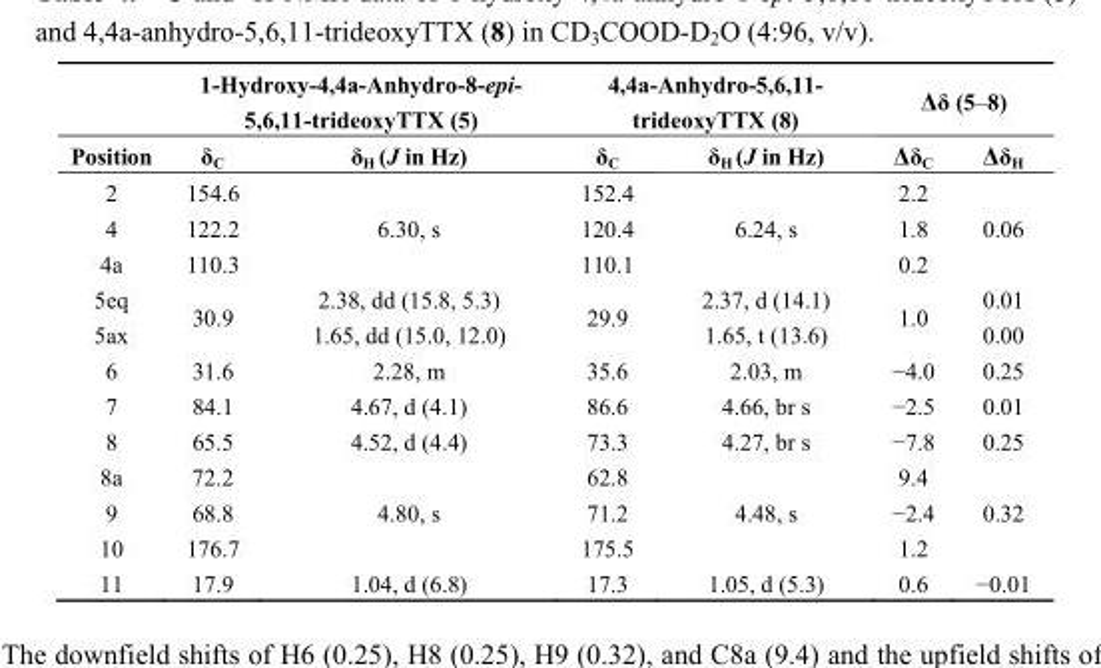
<table><thead><tr><td rowspan="2">Position</td><td colspan="2">1-Hydroxy-4,4a-Anhydro-8-epi- 5,6,11-trideoxyTTX (5)</td><td colspan="2">4,4a-Anhydro-5,6,11- trideoxyTTX (8)</td><td colspan="2">Δδ (5–8)</td></tr><tr><td>δ<sub>C</sub></td><td>δ<sub>H</sub> (J in Hz)</td><td>δ<sub>C</sub></td><td>δ<sub>H</sub> (J in Hz)</td><td>Δδ<sub>C</sub></td><td>Δδ<sub>H</sub></td></tr></thead><tbody><tr><td>2</td><td>154.6</td><td></td><td>152.4</td><td></td><td>2.2</td><td></td></tr><tr><td>4</td><td>122.2</td><td>6.30, s</td><td>120.4</td><td>6.24, s</td><td>1.8</td><td>0.06</td></tr><tr><td>4a</td><td>110.3</td><td></td><td>110.1</td><td></td><td>0.2</td><td></td></tr><tr><td>5eq</td><td rowspan="2">30.9</td><td>2.38, dd (15.8, 5.3)</td><td rowspan="2">29.9</td><td>2.37, d (14.1)</td><td rowspan="2">1.0</td><td>0.01</td></tr><tr><td>5ax</td><td>1.65, dd (15.0, 12.0)</td><td>1.65, t (13.6)</td><td>0.00</td></tr><tr><td>6</td><td>31.6</td><td>2.28, m</td><td>35.6</td><td>2.03, m</td><td>−4.0</td><td>0.25</td></tr><tr><td>7</td><td>84.1</td><td>4.67, d (4.1)</td><td>86.6</td><td>4.66, br s</td><td>−2.5</td><td>0.01</td></tr><tr><td>8</td><td>65.5</td><td>4.52, d (4.4)</td><td>73.3</td><td>4.27, br s</td><td>−7.8</td><td>0.25</td></tr><tr><td>8a</td><td>72.2</td><td></td><td>62.8</td><td></td><td>9.4</td><td></td></tr><tr><td>9</td><td>68.8</td><td>4.80, s</td><td>71.2</td><td>4.48, s</td><td>−2.4</td><td>0.32</td></tr><tr><td>10</td><td>176.7</td><td></td><td>175.5</td><td></td><td>1.2</td><td></td></tr><tr><td>11</td><td>17.9</td><td>1.04, d (6.8)</td><td>17.3</td><td>1.05, d (5.3)</td><td>0.6</td><td>−0.01</td></tr></tbody></table>